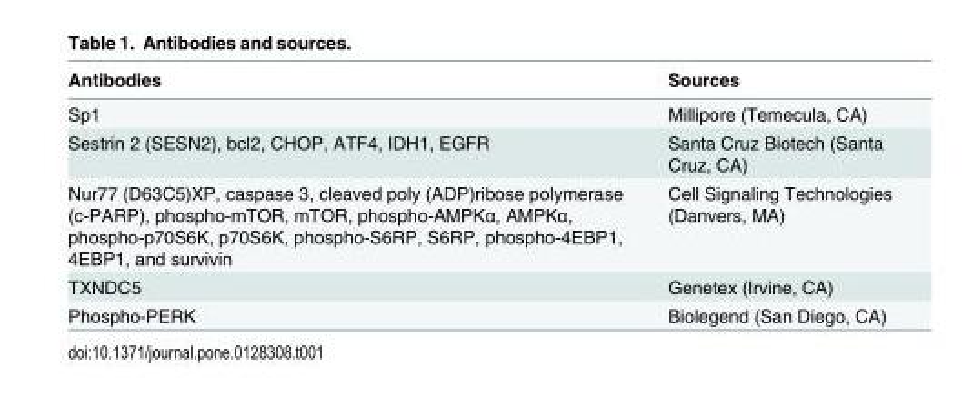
<table><thead><tr><td>Antibodies</td><td>Sources</td></tr></thead><tbody><tr><td>Sp1</td><td>Millipore (Temecula, CA)</td></tr><tr><td>Sestrin 2 (SESN2), bcl2, CHOP, ATF4, IDH1, EGFR</td><td>Santa Cruz Biotech (Santa Cruz, CA)</td></tr><tr><td>Nur77 (D63C5)XP, caspase 3, cleaved poly (ADP)ribose polymerase (c-PARP), phospho-mTOR, mTOR, phospho-AMPKα, AMPKα, phospho-p70S6K, p70S6K, phospho-S6RP, S6RP, phospho-4EBP1, 4EBP1, and survivin</td><td>Cell Signaling Technologies (Danvers, MA)</td></tr><tr><td>TXNDC5</td><td>Genetex (Irvine, CA)</td></tr><tr><td>Phospho-PERK</td><td>Biolegend (San Diego, CA)</td></tr></tbody></table>